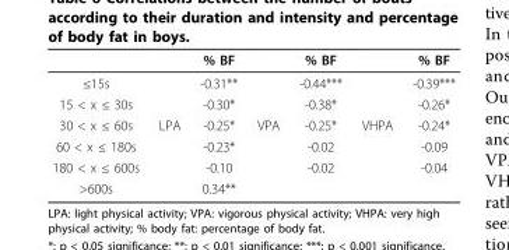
<table><thead><tr><td></td><td></td><td>% BF</td><td></td><td>% BF</td><td></td><td>% BF</td></tr></thead><tbody><tr><td>≤15s</td><td></td><td>-0.31**</td><td></td><td>-0.44***</td><td></td><td>-0.39***</td></tr><tr><td>15 &lt; x ≤ 30s</td><td></td><td>-0.30*</td><td></td><td>-0.38*</td><td></td><td>-0.26*</td></tr><tr><td>30 &lt; x ≤ 60s</td><td>LPA</td><td>-0.25*</td><td>VPA</td><td>-0.25*</td><td>VHPA</td><td>-0.24*</td></tr><tr><td>60 &lt; x ≤ 180s</td><td></td><td>-0.23*</td><td></td><td>-0.02</td><td></td><td>-0.09</td></tr><tr><td>180 &lt; x ≤ 600s</td><td></td><td>-0.10</td><td></td><td>-0.02</td><td></td><td>-0.04</td></tr><tr><td>&gt;600s</td><td></td><td>0.34**</td><td></td><td></td><td></td><td></td></tr></tbody></table>